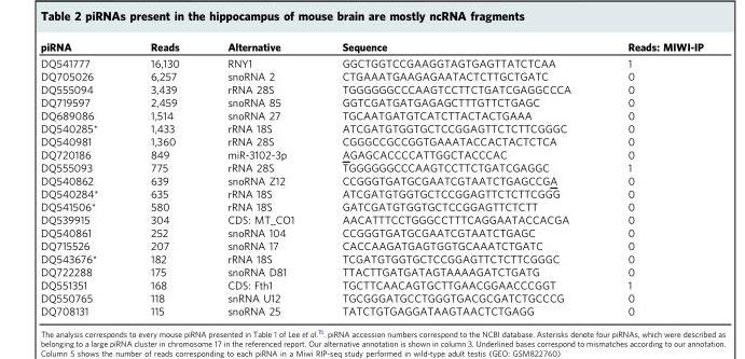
<table><thead><tr><td>piRNA</td><td>Reads</td><td>Alternative</td><td>Sequence</td><td>Reads: MIWI-IP</td></tr></thead><tbody><tr><td>DQ541777</td><td>16,130</td><td>RNY1</td><td>GGCTGGTCCGAAGGTAGTGAGTTATCTCAA</td><td>1</td></tr><tr><td>DQ705026</td><td>6,257</td><td>snoRNA 2</td><td>CTGAAATGAAGAGAATACTCTTGCTGATC</td><td>0</td></tr><tr><td>DQ555094</td><td>3,439</td><td>rRNA 28S</td><td>TGGGGGGCCCAAGTCCTTCTGATCGAGGCCCA</td><td>0</td></tr><tr><td>DQ719597</td><td>2,459</td><td>snoRNA 85</td><td>GGTCGATGATGAGAGCTTTGTTCTGAGC</td><td>0</td></tr><tr><td>DQ689086</td><td>1,514</td><td>snoRNA 27</td><td>TGCAATGATGTCATCTTACTACTGAAA</td><td>0</td></tr><tr><td>DQ540285*</td><td>1,433</td><td>rRNA 18S</td><td>ATCGATGTGGTGCTCCGGAGTTCTCTTCGGGC</td><td>0</td></tr><tr><td>DQ540981</td><td>1,360</td><td>rRNA 28S</td><td>CGGGCCGCCGGTGAAATACCACTACTCTCA</td><td>0</td></tr><tr><td>DQ720186</td><td>849</td><td>miR-3102-3p</td><td>AGAGCACCCCATTGGCTACCCAC</td><td>0</td></tr><tr><td>DQ555093</td><td>775</td><td>rRNA 28S</td><td>TGGGGGGCCCAAGTCCTTCTGATCGAGGC</td><td>1</td></tr><tr><td>DQ540862</td><td>639</td><td>snoRNA Z12</td><td>CCGGGTGATGCGAATCGTAATCTGAGCCGA</td><td>0</td></tr><tr><td>DQ540284*</td><td>635</td><td>rRNA 18S</td><td>ATCGATGTGGTGCTCCGGAGTTCTCTTCGGG</td><td>0</td></tr><tr><td>DQ541506*</td><td>580</td><td>rRNA 18S</td><td>GATCGATGTGGTGCTCCGGAGTTCTCTT</td><td>0</td></tr><tr><td>DQ539915</td><td>304</td><td>CDS: MT_CO1</td><td>AACATTTCCTGGGCCTTTCAGGAATACCACGA</td><td>0</td></tr><tr><td>DQ540861</td><td>252</td><td>snoRNA 104</td><td>CCGGGTGATGCGAATCGTAATCTGAGC</td><td>0</td></tr><tr><td>DQ715526</td><td>207</td><td>snoRNA 17</td><td>CACCAAGATGAGTGGTGCAAATCTGATC</td><td>0</td></tr><tr><td>DQ543676*</td><td>182</td><td>rRNA 18S</td><td>TCGATGTGGTGCTCCGGAGTTCTCTTCGGGC</td><td>0</td></tr><tr><td>DQ722288</td><td>175</td><td>snoRNA D81</td><td>TTACTTGATGATAGTAAAAGATCTGATG</td><td>0</td></tr><tr><td>DQ551351</td><td>168</td><td>CDS: Fth1</td><td>TGCTTCAACAGTGCTTGAACGGAACCCGGT</td><td>1</td></tr><tr><td>DQ550765</td><td>118</td><td>snRNA U12</td><td>TGCGGGATGCCTGGGTGACGCGATCTGCCCG</td><td>0</td></tr><tr><td>DQ708131</td><td>115</td><td>snoRNA 25</td><td>TATCTGTGAGGATAAGTAACTCTGAGG</td><td>0</td></tr></tbody></table>